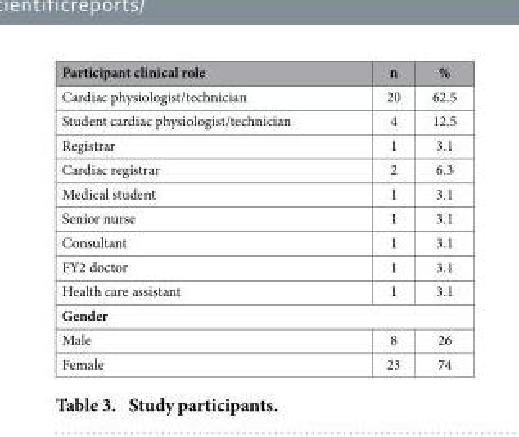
<table><thead><tr><td>Participant clinical role</td><td>n</td><td>%</td></tr></thead><tbody><tr><td>Cardiac physiologist/technician</td><td>20</td><td>62.5</td></tr><tr><td>Student cardiac physiologist/technician</td><td>4</td><td>12.5</td></tr><tr><td>Registrar</td><td>1</td><td>3.1</td></tr><tr><td>Cardiac registrar</td><td>2</td><td>6.3</td></tr><tr><td>Medical student</td><td>1</td><td>3.1</td></tr><tr><td>Senior nurse</td><td>1</td><td>3.1</td></tr><tr><td>Consultant</td><td>1</td><td>3.1</td></tr><tr><td>FY2 doctor</td><td>1</td><td>3.1</td></tr><tr><td>Health care assistant</td><td>1</td><td>3.1</td></tr><tr><td colspan="3">Gender</td></tr><tr><td>Male</td><td>8</td><td>26</td></tr><tr><td>Female</td><td>23</td><td>74</td></tr></tbody></table>